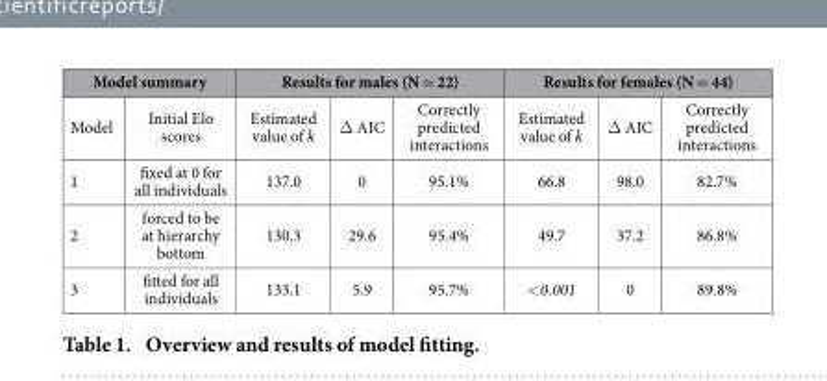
<table><thead><tr><td colspan="2">Model summary</td><td colspan="3">Results for males (N = 22)</td><td colspan="3">Results for females (N = 44)</td></tr><tr><td>Model</td><td>Initial Elo scores</td><td>Estimated value of k</td><td>Δ AIC</td><td>Correctly predicted interactions</td><td>Estimated value of k</td><td>Δ AIC</td><td>Correctly predicted interactions</td></tr></thead><tbody><tr><td>1</td><td>fixed at 0 for all individuals</td><td>137.0</td><td>0</td><td>95.1%</td><td>66.8</td><td>98.0</td><td>82.7%</td></tr><tr><td>2</td><td>forced to be at hierarchy bottom</td><td>130.3</td><td>29.6</td><td>95.4%</td><td>49.7</td><td>37.2</td><td>86.8%</td></tr><tr><td>3</td><td>fitted for all individuals</td><td>133.1</td><td>5.9</td><td>95.7%</td><td>&lt; 0.001</td><td>0</td><td>89.8%</td></tr></tbody></table>